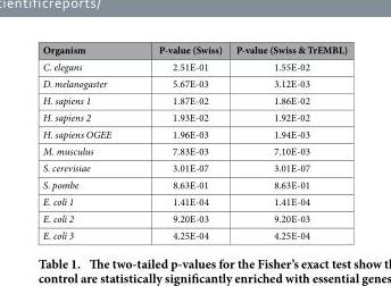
<table><thead><tr><td>Organism</td><td>P-value (Swiss)</td><td>P-value (Swiss &amp; TrEMBL)</td></tr></thead><tbody><tr><td>C. elegans</td><td>2.51E-01</td><td>1.55E-02</td></tr><tr><td>D. melanogaster</td><td>5.67E-03</td><td>3.12E-03</td></tr><tr><td>H. sapiens 1</td><td>1.87E-02</td><td>1.86E-02</td></tr><tr><td>H. sapiens 2</td><td>1.93E-02</td><td>1.92E-02</td></tr><tr><td>H. sapiens OGEE</td><td>1.96E-03</td><td>1.94E-03</td></tr><tr><td>M. musculus</td><td>7.83E-03</td><td>7.10E-03</td></tr><tr><td>S. cerevisiae</td><td>3.01E-07</td><td>3.01E-07</td></tr><tr><td>S. pombe</td><td>8.63E-01</td><td>8.63E-01</td></tr><tr><td>E. coli 1</td><td>1.41E-04</td><td>1.41E-04</td></tr><tr><td>E. coli 2</td><td>9.20E-03</td><td>9.20E-03</td></tr><tr><td>E. coli 3</td><td>4.25E-04</td><td>4.25E-04</td></tr></tbody></table>